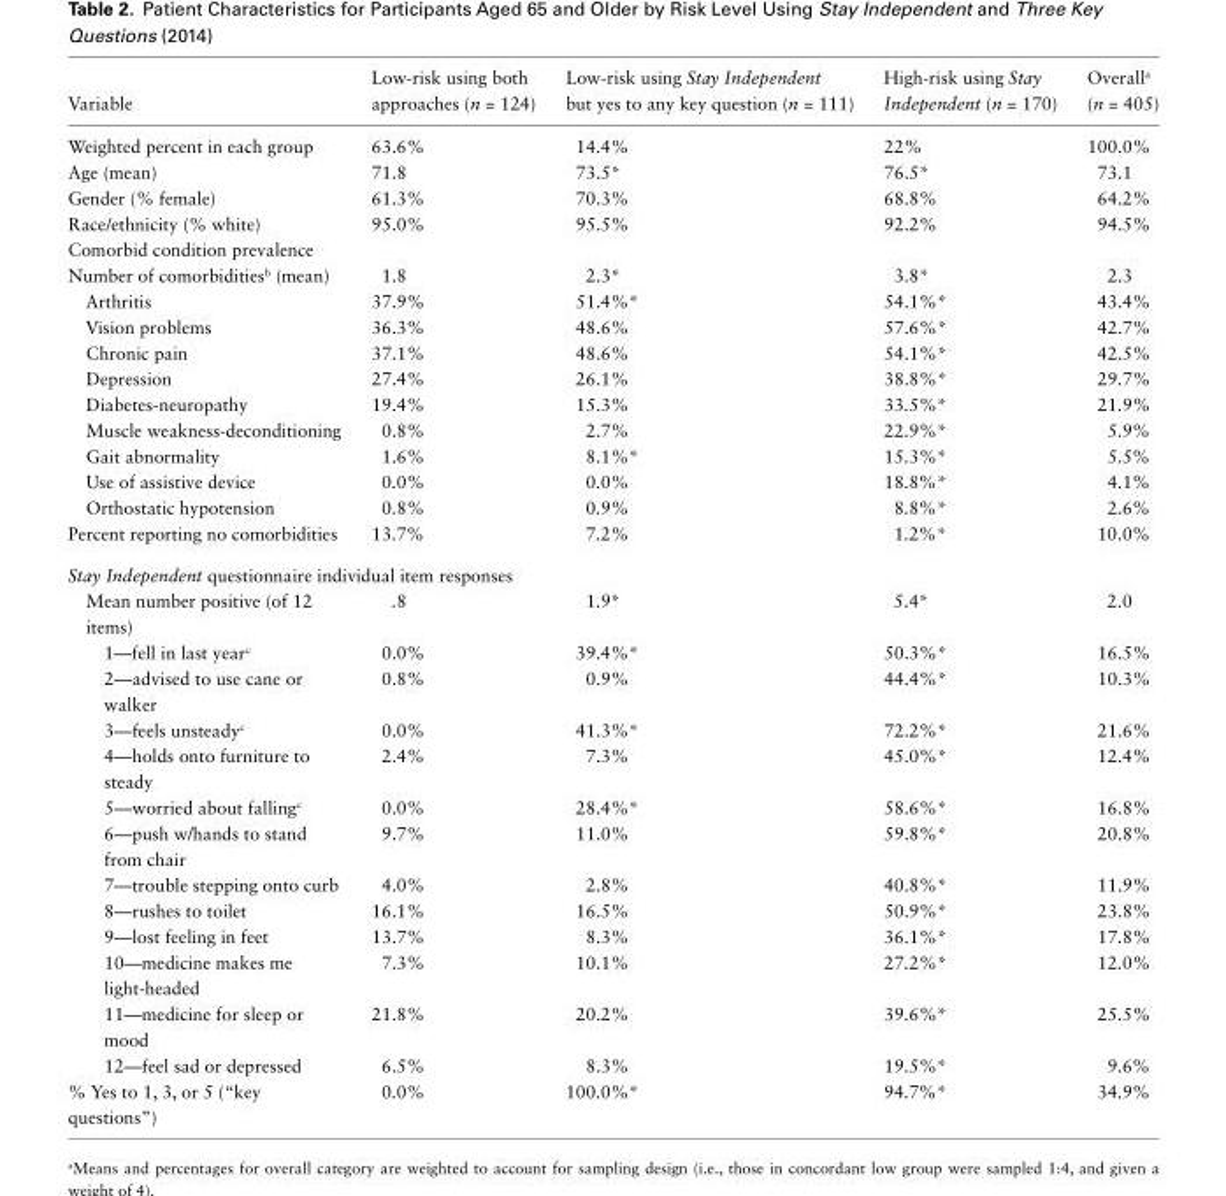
<table><thead><tr><td>Variable</td><td>Low-risk using both approaches (n = 124)</td><td>Low-risk using Stay Independent but yes to any key question (n = 111)</td><td>High-risk using Stay Independent (n = 170)</td><td>Overall<sup>a</sup> (n = 405)</td></tr></thead><tbody><tr><td>Weighted percent in each group</td><td>63.6%</td><td>14.4%</td><td>22%</td><td>100.0%</td></tr><tr><td>Age (mean)</td><td>71.8</td><td>73.5*</td><td>76.5*</td><td>73.1</td></tr><tr><td>Gender (% female)</td><td>61.3%</td><td>70.3%</td><td>68.8%</td><td>64.2%</td></tr><tr><td>Race/ethnicity (% white)</td><td>95.0%</td><td>95.5%</td><td>92.2%</td><td>94.5%</td></tr><tr><td colspan="5">Comorbid condition prevalence</td></tr><tr><td>Number of comorbidities<sup>b</sup> (mean)</td><td>1.8</td><td>2.3*</td><td>3.8*</td><td>2.3</td></tr><tr><td>Arthritis</td><td>37.9%</td><td>51.4%*</td><td>54.1%*</td><td>43.4%</td></tr><tr><td>Vision problems</td><td>36.3%</td><td>48.6%</td><td>57.6%*</td><td>42.7%</td></tr><tr><td>Chronic pain</td><td>37.1%</td><td>48.6%</td><td>54.1%*</td><td>42.5%</td></tr><tr><td>Depression</td><td>27.4%</td><td>26.1%</td><td>38.8%*</td><td>29.7%</td></tr><tr><td>Diabetes-neuropathy</td><td>19.4%</td><td>15.3%</td><td>33.5%*</td><td>21.9%</td></tr><tr><td>Muscle weakness-deconditioning</td><td>0.8%</td><td>2.7%</td><td>22.9%*</td><td>5.9%</td></tr><tr><td>Gait abnormality</td><td>1.6%</td><td>8.1%*</td><td>15.3%*</td><td>5.5%</td></tr><tr><td>Use of assistive device</td><td>0.0%</td><td>0.0%</td><td>18.8%*</td><td>4.1%</td></tr><tr><td>Orthostatic hypotension</td><td>0.8%</td><td>0.9%</td><td>8.8%*</td><td>2.6%</td></tr><tr><td>Percent reporting no comorbidities</td><td>13.7%</td><td>7.2%</td><td>1.2%*</td><td>10.0%</td></tr><tr><td colspan="5">Stay Independent questionnaire individual item responses</td></tr><tr><td>Mean number positive (of 12 items)</td><td>.8</td><td>1.9*</td><td>5.4*</td><td>2.0</td></tr><tr><td>1—fell in last year<sup>c</sup></td><td>0.0%</td><td>39.4%*</td><td>50.3%*</td><td>16.5%</td></tr><tr><td>2—advised to use cane or walker</td><td>0.8%</td><td>0.9%</td><td>44.4%*</td><td>10.3%</td></tr><tr><td>3—feels unsteady<sup>c</sup></td><td>0.0%</td><td>41.3%*</td><td>72.2%*</td><td>21.6%</td></tr><tr><td>4—holds onto furniture to steady</td><td>2.4%</td><td>7.3%</td><td>45.0%*</td><td>12.4%</td></tr><tr><td>5—worried about falling<sup>c</sup></td><td>0.0%</td><td>28.4%*</td><td>58.6%*</td><td>16.8%</td></tr><tr><td>6—push w/hands to stand from chair</td><td>9.7%</td><td>11.0%</td><td>59.8%*</td><td>20.8%</td></tr><tr><td>7—trouble stepping onto curb</td><td>4.0%</td><td>2.8%</td><td>40.8%*</td><td>11.9%</td></tr><tr><td>8—rushes to toilet</td><td>16.1%</td><td>16.5%</td><td>50.9%*</td><td>23.8%</td></tr><tr><td>9—lost feeling in feet</td><td>13.7%</td><td>8.3%</td><td>36.1%*</td><td>17.8%</td></tr><tr><td>10—medicine makes me light-headed</td><td>7.3%</td><td>10.1%</td><td>27.2%*</td><td>12.0%</td></tr><tr><td>11—medicine for sleep or mood</td><td>21.8%</td><td>20.2%</td><td>39.6%*</td><td>25.5%</td></tr><tr><td>12—feel sad or depressed</td><td>6.5%</td><td>8.3%</td><td>19.5%*</td><td>9.6%</td></tr><tr><td>% Yes to 1, 3, or 5 (“key questions”)</td><td>0.0%</td><td>100.0%*</td><td>94.7%*</td><td>34.9%</td></tr></tbody></table>